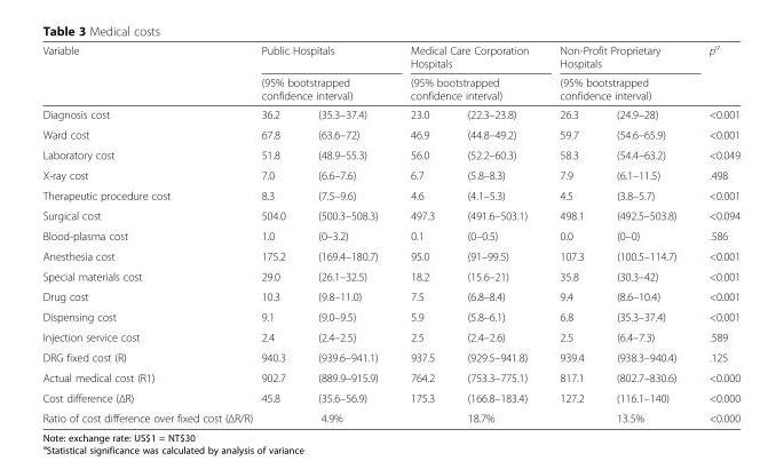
<table><thead><tr><td rowspan="3">Variable Diagnosis cost</td><td rowspan="2" colspan="2">Public Hospitals (95% bootstrapped confidence interval)</td><td rowspan="2" colspan="2">Medical Care Corporation Hospitals (95% bootstrapped confidence interval)</td><td rowspan="2" colspan="2">Non-Profit Proprietary Hospitals (95% bootstrapped confidence interval)</td><td rowspan="3">p<sup>a</sup> &lt;0.001</td></tr><tr></tr><tr><td>36.2</td><td>(35.3–37.4)</td><td>23.0</td><td>(22.3–23.8)</td><td>26.3</td><td>(24.9–28)</td></tr></thead><tbody><tr><td>Ward cost</td><td>67.8</td><td>(63.6–72)</td><td>46.9</td><td>(44.8–49.2)</td><td>59.7</td><td>(54.6–65.9)</td><td>&lt;0.001</td></tr><tr><td>Laboratory cost</td><td>51.8</td><td>(48.9–55.3)</td><td>56.0</td><td>(52.2–60.3)</td><td>58.3</td><td>(54.4–63.2)</td><td>&lt;0.049</td></tr><tr><td>X-ray cost</td><td>7.0</td><td>(6.6–7.6)</td><td>6.7</td><td>(5.8–8.3)</td><td>7.9</td><td>(6.1–11.5)</td><td>.498</td></tr><tr><td>Therapeutic procedure cost</td><td>8.3</td><td>(7.5–9.6)</td><td>4.6</td><td>(4.1–5.3)</td><td>4.5</td><td>(3.8–5.7)</td><td>&lt;0.001</td></tr><tr><td>Surgical cost</td><td>504.0</td><td>(500.3–508.3)</td><td>497.3</td><td>(491.6–503.1)</td><td>498.1</td><td>(492.5–503.8)</td><td>&lt;0.094</td></tr><tr><td>Blood-plasma cost</td><td>1.0</td><td>(0–3.2)</td><td>0.1</td><td>(0–0.5)</td><td>0.0</td><td>(0–0)</td><td>.586</td></tr><tr><td>Anesthesia cost</td><td>175.2</td><td>(169.4–180.7)</td><td>95.0</td><td>(91–99.5)</td><td>107.3</td><td>(100.5–114.7)</td><td>&lt;0.001</td></tr><tr><td>Special materials cost</td><td>29.0</td><td>(26.1–32.5)</td><td>18.2</td><td>(15.6–21)</td><td>35.8</td><td>(30.3–42)</td><td>&lt;0.001</td></tr><tr><td>Drug cost</td><td>10.3</td><td>(9.8–11.0)</td><td>7.5</td><td>(6.8–8.4)</td><td>9.4</td><td>(8.6–10.4)</td><td>&lt;0.001</td></tr><tr><td>Dispensing cost</td><td>9.1</td><td>(9.0–9.5)</td><td>5.9</td><td>(5.8–6.1)</td><td>6.8</td><td>(35.3–37.4)</td><td>&lt;0.001</td></tr><tr><td>Injection service cost</td><td>2.4</td><td>(2.4–2.5)</td><td>2.5</td><td>(2.4–2.6)</td><td>2.5</td><td>(6.4–7.3)</td><td>.589</td></tr><tr><td>DRG fixed cost (R)</td><td>940.3</td><td>(939.6–941.1)</td><td>937.5</td><td>(929.5–941.8)</td><td>939.4</td><td>(938.3–940.4)</td><td>.125</td></tr><tr><td>Actual medical cost (R1)</td><td>902.7</td><td>(889.9–915.9)</td><td>764.2</td><td>(753.3–775.1)</td><td>817.1</td><td>(802.7–830.6)</td><td>&lt;0.000</td></tr><tr><td>Cost difference (ΔR)</td><td>45.8</td><td>(35.6–56.9)</td><td>175.3</td><td>(166.8–183.4)</td><td>127.2</td><td>(116.1–140)</td><td>&lt;0.000</td></tr><tr><td>Ratio of cost difference over fixed cost (ΔR/R)</td><td colspan="2">4.9%</td><td colspan="2">18.7%</td><td colspan="2">13.5%</td><td>&lt;0.000</td></tr></tbody></table>